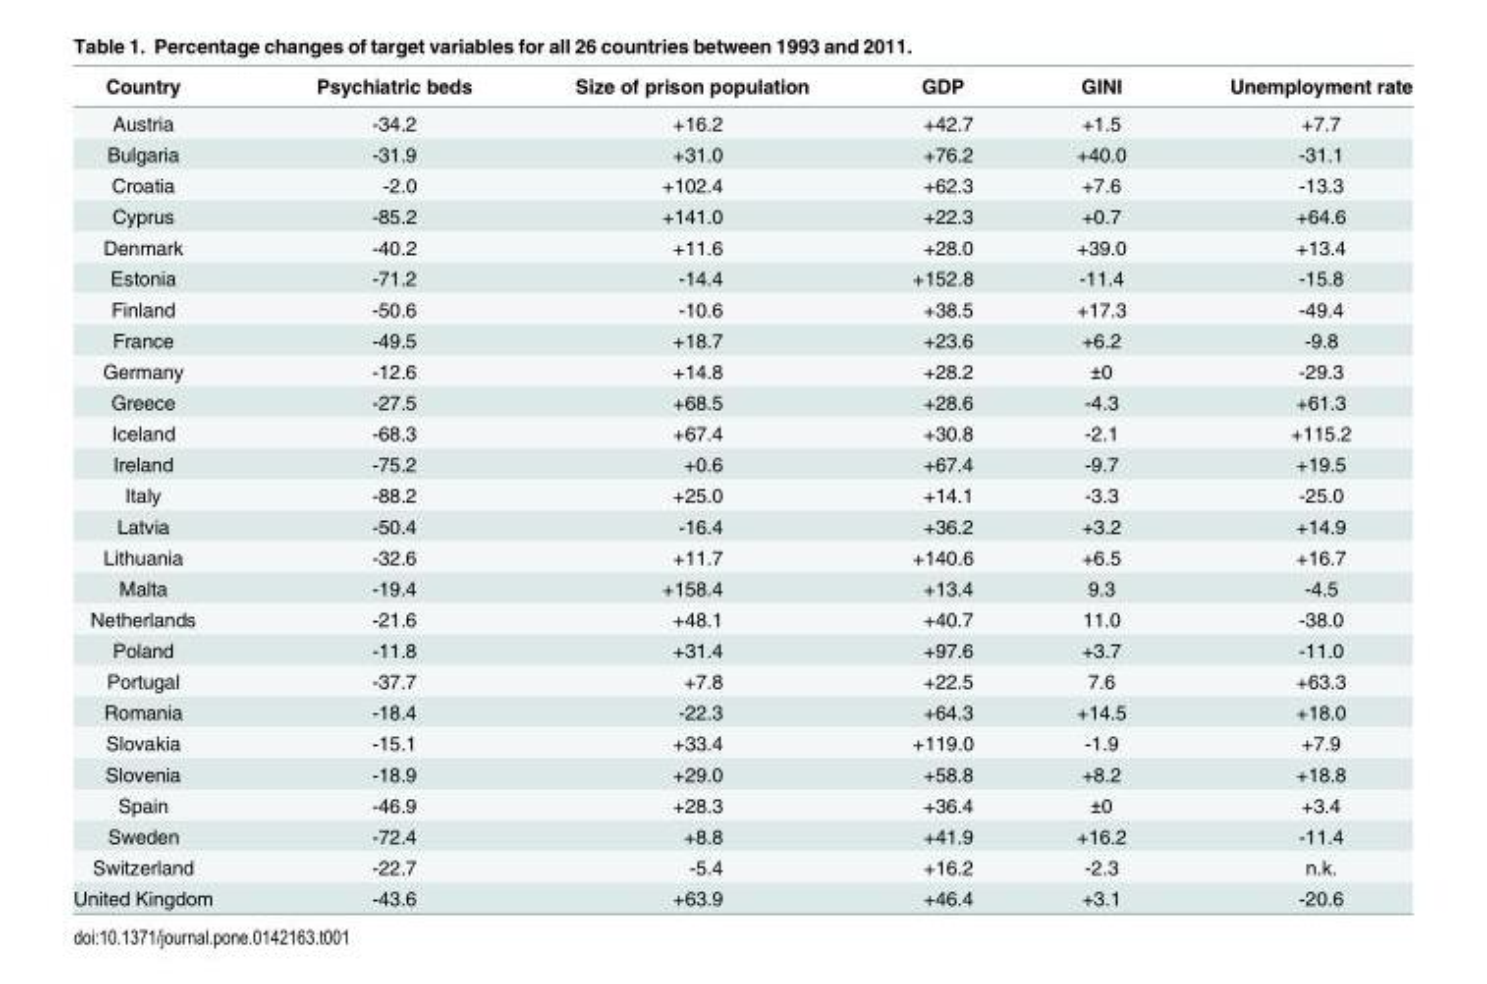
<table><thead><tr><td>Country</td><td>Psychiatric beds</td><td>Size of prison population</td><td>GDP</td><td>GINI</td><td>Unemployment rate</td></tr></thead><tbody><tr><td>Austria</td><td>-34.2</td><td>+16.2</td><td>+42.7</td><td>+1.5</td><td>+7.7</td></tr><tr><td>Bulgaria</td><td>-31.9</td><td>+31.0</td><td>+76.2</td><td>+40.0</td><td>-31.1</td></tr><tr><td>Croatia</td><td>-2.0</td><td>+102.4</td><td>+62.3</td><td>+7.6</td><td>-13.3</td></tr><tr><td>Cyprus</td><td>-85.2</td><td>+141.0</td><td>+22.3</td><td>+0.7</td><td>+64.6</td></tr><tr><td>Denmark</td><td>-40.2</td><td>+11.6</td><td>+28.0</td><td>+39.0</td><td>+13.4</td></tr><tr><td>Estonia</td><td>-71.2</td><td>-14.4</td><td>+152.8</td><td>-11.4</td><td>-15.8</td></tr><tr><td>Finland</td><td>-50.6</td><td>-10.6</td><td>+38.5</td><td>+17.3</td><td>-49.4</td></tr><tr><td>France</td><td>-49.5</td><td>+18.7</td><td>+23.6</td><td>+6.2</td><td>-9.8</td></tr><tr><td>Germany</td><td>-12.6</td><td>+14.8</td><td>+28.2</td><td>±0</td><td>-29.3</td></tr><tr><td>Greece</td><td>-27.5</td><td>+68.5</td><td>+28.6</td><td>-4.3</td><td>+61.3</td></tr><tr><td>Iceland</td><td>-68.3</td><td>+67.4</td><td>+30.8</td><td>-2.1</td><td>+115.2</td></tr><tr><td>Ireland</td><td>-75.2</td><td>+0.6</td><td>+67.4</td><td>-9.7</td><td>+19.5</td></tr><tr><td>Italy</td><td>-88.2</td><td>+25.0</td><td>+14.1</td><td>-3.3</td><td>-25.0</td></tr><tr><td>Latvia</td><td>-50.4</td><td>-16.4</td><td>+36.2</td><td>+3.2</td><td>+14.9</td></tr><tr><td>Lithuania</td><td>-32.6</td><td>+11.7</td><td>+140.6</td><td>+6.5</td><td>+16.7</td></tr><tr><td>Malta</td><td>-19.4</td><td>+158.4</td><td>+13.4</td><td>9.3</td><td>-4.5</td></tr><tr><td>Netherlands</td><td>-21.6</td><td>+48.1</td><td>+40.7</td><td>11.0</td><td>-38.0</td></tr><tr><td>Poland</td><td>-11.8</td><td>+31.4</td><td>+97.6</td><td>+3.7</td><td>-11.0</td></tr><tr><td>Portugal</td><td>-37.7</td><td>+7.8</td><td>+22.5</td><td>7.6</td><td>+63.3</td></tr><tr><td>Romania</td><td>-18.4</td><td>-22.3</td><td>+64.3</td><td>+14.5</td><td>+18.0</td></tr><tr><td>Slovakia</td><td>-15.1</td><td>+33.4</td><td>+119.0</td><td>-1.9</td><td>+7.9</td></tr><tr><td>Slovenia</td><td>-18.9</td><td>+29.0</td><td>+58.8</td><td>+8.2</td><td>+18.8</td></tr><tr><td>Spain</td><td>-46.9</td><td>+28.3</td><td>+36.4</td><td>±0</td><td>+3.4</td></tr><tr><td>Sweden</td><td>-72.4</td><td>+8.8</td><td>+41.9</td><td>+16.2</td><td>-11.4</td></tr><tr><td>Switzerland</td><td>-22.7</td><td>-5.4</td><td>+16.2</td><td>-2.3</td><td>n.k.</td></tr><tr><td>United Kingdom</td><td>-43.6</td><td>+63.9</td><td>+46.4</td><td>+3.1</td><td>-20.6</td></tr></tbody></table>